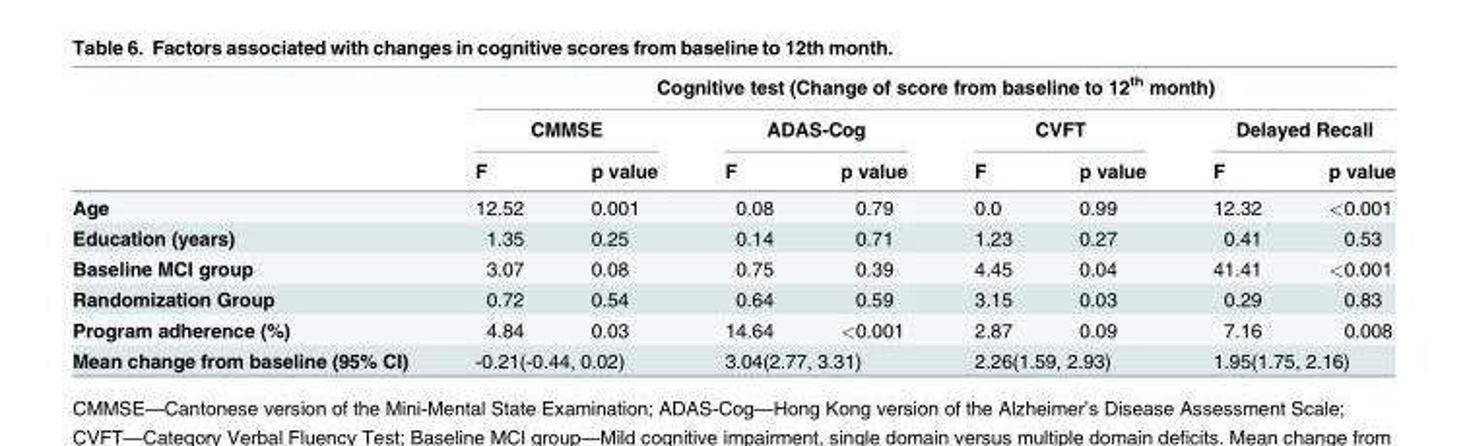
<table><thead><tr><td rowspan="3"></td><td colspan="8">Cognitive test (Change of score from baseline to 12<sup>th</sup> month)</td></tr><tr><td colspan="2">CMMSE</td><td colspan="2">ADAS-Cog</td><td colspan="2">CVFT</td><td colspan="2">Delayed Recall</td></tr><tr><td>F</td><td>p value</td><td>F</td><td>p value</td><td>F</td><td>p value</td><td>F</td><td>p value</td></tr></thead><tbody><tr><td>Age</td><td>12.52</td><td>0.001</td><td>0.08</td><td>0.79</td><td>0.0</td><td>0.99</td><td>12.32</td><td>&lt;0.001</td></tr><tr><td>Education (years)</td><td>1.35</td><td>0.25</td><td>0.14</td><td>0.71</td><td>1.23</td><td>0.27</td><td>0.41</td><td>0.53</td></tr><tr><td>Baseline MCI group</td><td>3.07</td><td>0.08</td><td>0.75</td><td>0.39</td><td>4.45</td><td>0.04</td><td>41.41</td><td>&lt;0.001</td></tr><tr><td>Randomization Group</td><td>0.72</td><td>0.54</td><td>0.64</td><td>0.59</td><td>3.15</td><td>0.03</td><td>0.29</td><td>0.83</td></tr><tr><td>Program adherence (%)</td><td>4.84</td><td>0.03</td><td>14.64</td><td>&lt;0.001</td><td>2.87</td><td>0.09</td><td>7.16</td><td>0.008</td></tr><tr><td>Mean change from baseline (95% CI)</td><td colspan="2">-0.21(-0.44, 0.02)</td><td colspan="2">3.04(2.77, 3.31)</td><td colspan="2">2.26(1.59, 2.93)</td><td colspan="2">1.95(1.75, 2.16)</td></tr></tbody></table>